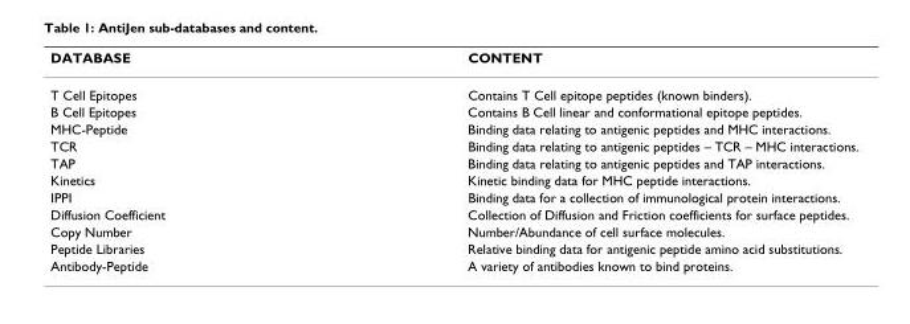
<table><thead><tr><td>DATABASE</td><td>CONTENT</td></tr></thead><tbody><tr><td>T Cell Epitopes</td><td>Contains T Cell epitope peptides (known binders).</td></tr><tr><td>B Cell Epitopes</td><td>Contains B Cell linear and conformational epitope peptides.</td></tr><tr><td>MHC-Peptide</td><td>Binding data relating to antigenic peptides and MHC interactions.</td></tr><tr><td>TCR</td><td>Binding data relating to antigenic peptides – TCR – MHC interactions.</td></tr><tr><td>TAP</td><td>Binding data relating to antigenic peptides and TAP interactions.</td></tr><tr><td>Kinetics</td><td>Kinetic binding data for MHC peptide interactions.</td></tr><tr><td>IPPI</td><td>Binding data for a collection of immunological protein interactions.</td></tr><tr><td>Diffusion Coefficient</td><td>Collection of Diffusion and Friction coefficients for surface peptides.</td></tr><tr><td>Copy Number</td><td>Number/Abundance of cell surface molecules.</td></tr><tr><td>Peptide Libraries</td><td>Relative binding data for antigenic peptide amino acid substitutions.</td></tr><tr><td>Antibody-Peptide</td><td>A variety of antibodies known to bind proteins.</td></tr></tbody></table>